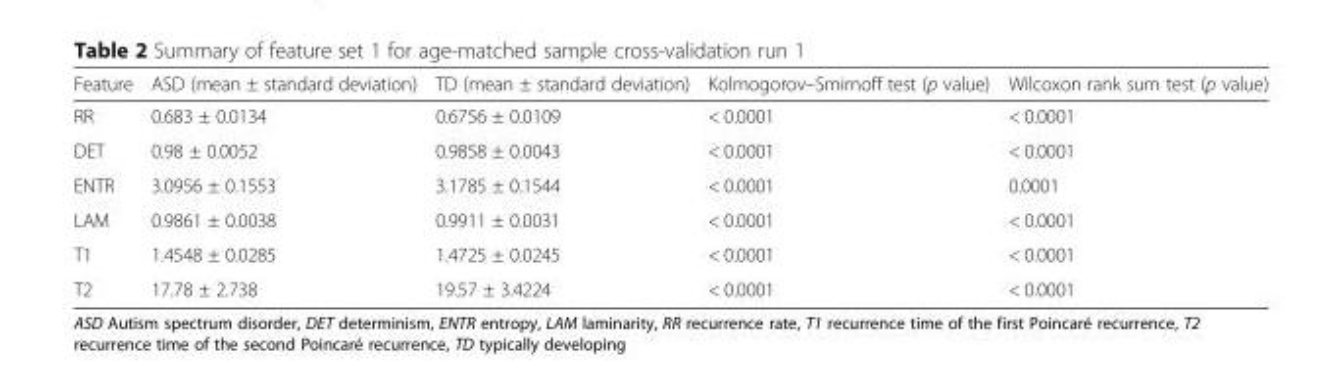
<table><thead><tr><td>Feature</td><td>ASD (mean ± standard deviation)</td><td>TD (mean ± standard deviation)</td><td>Kolmogorov–Smirnoff test (p value)</td><td>Wilcoxon rank sum test (p value)</td></tr></thead><tbody><tr><td>RR</td><td>0.683 ± 0.0134</td><td>0.6756 ± 0.0109</td><td>&lt; 0.0001</td><td>&lt; 0.0001</td></tr><tr><td>DET</td><td>0.98 ± 0.0052</td><td>0.9858 ± 0.0043</td><td>&lt; 0.0001</td><td>&lt; 0.0001</td></tr><tr><td>ENTR</td><td>3.0956 ± 0.1553</td><td>3.1785 ± 0.1544</td><td>&lt; 0.0001</td><td>0.0001</td></tr><tr><td>LAM</td><td>0.9861 ± 0.0038</td><td>0.9911 ± 0.0031</td><td>&lt; 0.0001</td><td>&lt; 0.0001</td></tr><tr><td>T1</td><td>1.4548 ± 0.0285</td><td>1.4725 ± 0.0245</td><td>&lt; 0.0001</td><td>&lt; 0.0001</td></tr><tr><td>T2</td><td>17.78 ± 2.738</td><td>19.57 ± 3.4224</td><td>&lt; 0.0001</td><td>&lt; 0.0001</td></tr></tbody></table>